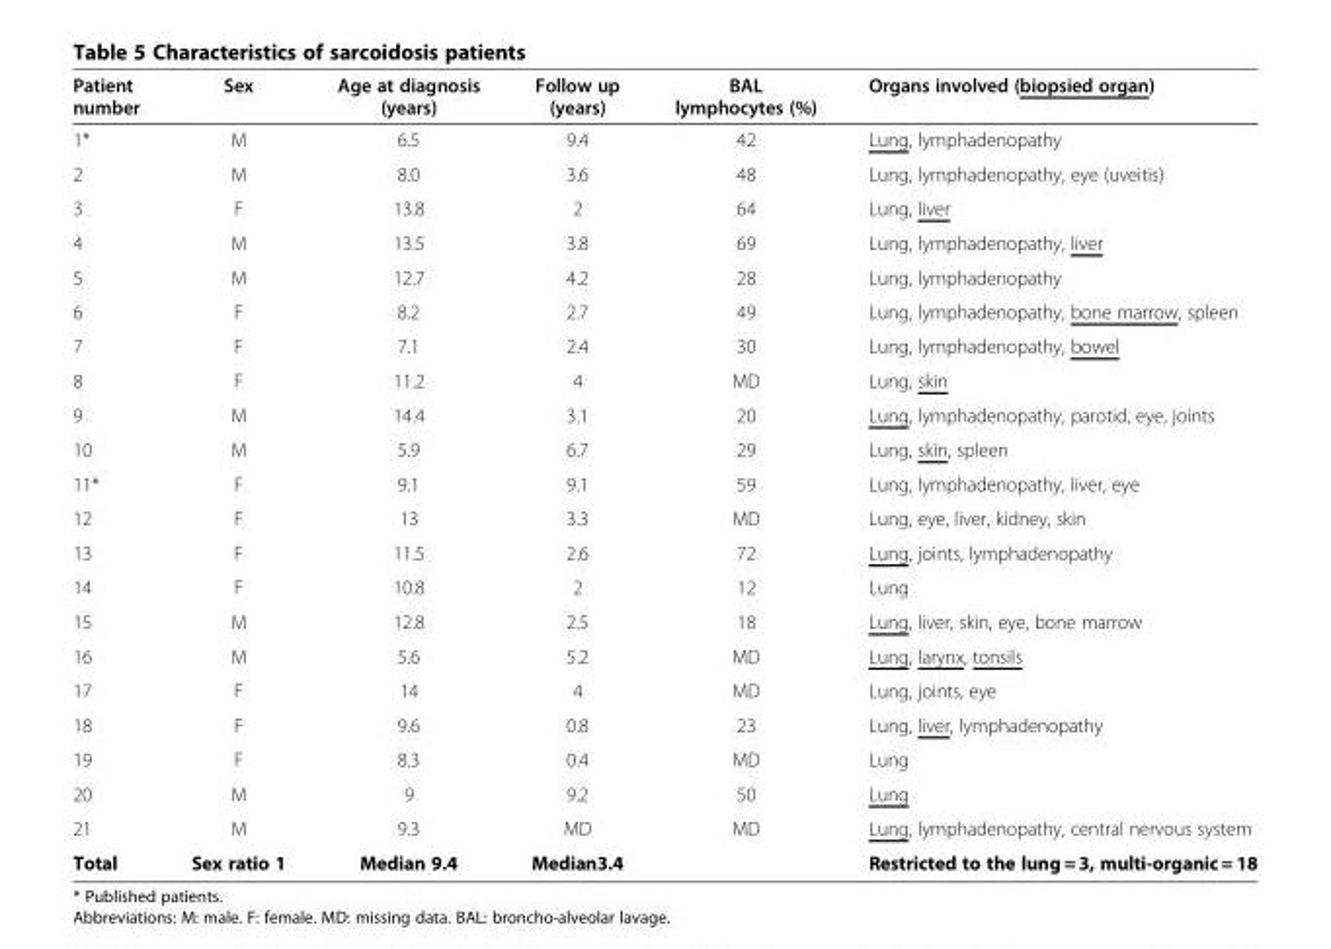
<table><thead><tr><td>Patient number</td><td>Sex</td><td>Age at diagnosis (years)</td><td>Follow up (years)</td><td>BAL lymphocytes (%)</td><td>Organs involved (biopsied organ)</td></tr></thead><tbody><tr><td>1*</td><td>M</td><td>6.5</td><td>9.4</td><td>42</td><td>Lung, lymphadenopathy</td></tr><tr><td>2</td><td>M</td><td>8.0</td><td>3.6</td><td>48</td><td>Lung, lymphadenopathy, eye (uveitis)</td></tr><tr><td>3</td><td>F</td><td>13.8</td><td>2</td><td>64</td><td>Lung, liver</td></tr><tr><td>4</td><td>M</td><td>13.5</td><td>3.8</td><td>69</td><td>Lung, lymphadenopathy, liver</td></tr><tr><td>5</td><td>M</td><td>12.7</td><td>4.2</td><td>28</td><td>Lung, lymphadenopathy</td></tr><tr><td>6</td><td>F</td><td>8.2</td><td>2.7</td><td>49</td><td>Lung, lymphadenopathy, bone marrow, spleen</td></tr><tr><td>7</td><td>F</td><td>7.1</td><td>2.4</td><td>30</td><td>Lung, lymphadenopathy, bowel</td></tr><tr><td>8</td><td>F</td><td>11.2</td><td>4</td><td>MD</td><td>Lung, skin</td></tr><tr><td>9</td><td>M</td><td>14.4</td><td>3.1</td><td>20</td><td>Lung, lymphadenopathy, parotid, eye, joints</td></tr><tr><td>10</td><td>M</td><td>5.9</td><td>6.7</td><td>29</td><td>Lung, skin, spleen</td></tr><tr><td>11*</td><td>F</td><td>9.1</td><td>9.1</td><td>59</td><td>Lung, lymphadenopathy, liver, eye</td></tr><tr><td>12</td><td>F</td><td>13</td><td>3.3</td><td>MD</td><td>Lung, eye, liver, kidney, skin</td></tr><tr><td>13</td><td>F</td><td>11.5</td><td>2.6</td><td>72</td><td>Lung, joints, lymphadenopathy</td></tr><tr><td>14</td><td>F</td><td>10.8</td><td>2</td><td>12</td><td>Lung</td></tr><tr><td>15</td><td>M</td><td>12.8</td><td>2.5</td><td>18</td><td>Lung, liver, skin, eye, bone marrow</td></tr><tr><td>16</td><td>M</td><td>5.6</td><td>5.2</td><td>MD</td><td>Lung, larynx, tonsils</td></tr><tr><td>17</td><td>F</td><td>14</td><td>4</td><td>MD</td><td>Lung, joints, eye</td></tr><tr><td>18</td><td>F</td><td>9.6</td><td>0.8</td><td>23</td><td>Lung, liver, lymphadenopathy</td></tr><tr><td>19</td><td>F</td><td>8.3</td><td>0.4</td><td>MD</td><td>Lung</td></tr><tr><td>20</td><td>M</td><td>9</td><td>9.2</td><td>50</td><td>Lung</td></tr><tr><td>21</td><td>M</td><td>9.3</td><td>MD</td><td>MD</td><td>Lung, lymphadenopathy, central nervous system</td></tr><tr><td>Total</td><td>Sex ratio 1</td><td>Median 9.4</td><td>Median3.4</td><td></td><td>Restricted to the lung = 3, multi-organic = 18</td></tr></tbody></table>